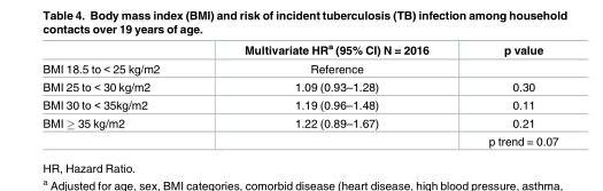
<table><thead><tr><td></td><td>Multivariate HR<sup>a</sup> (95% CI) N = 2016</td><td>p value</td></tr></thead><tbody><tr><td>BMI 18.5 to &lt; 25 kg/m2</td><td>Reference</td><td></td></tr><tr><td>BMI 25 to &lt; 30 kg/m2</td><td>1.09 (0.93–1.28)</td><td>0.30</td></tr><tr><td>BMI 30 to &lt; 35kg/m2</td><td>1.19 (0.96–1.48)</td><td>0.11</td></tr><tr><td rowspan="2">BMI ≥ 35 kg/m2</td><td>1.22 (0.89–1.67)</td><td>0.21</td></tr><tr><td></td><td>p trend = 0.07</td></tr></tbody></table>